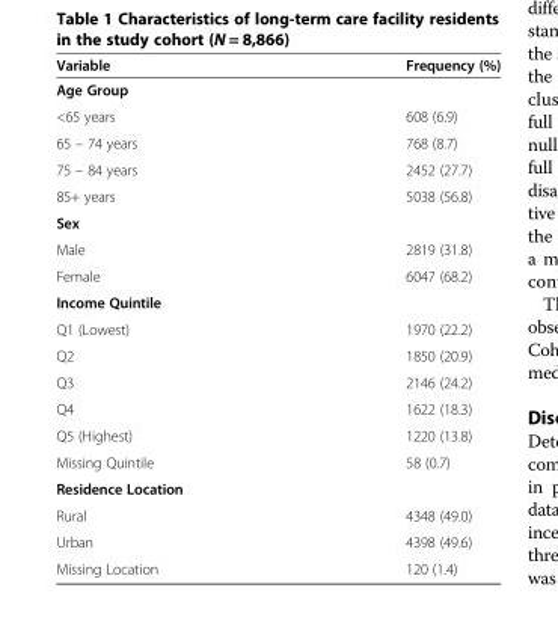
<table><thead><tr><td>Variable</td><td>Frequency (%)</td></tr></thead><tbody><tr><td colspan="2">Age Group</td></tr><tr><td>&lt;65 years</td><td>608 (6.9)</td></tr><tr><td>65 – 74 years</td><td>768 (8.7)</td></tr><tr><td>75 – 84 years</td><td>2452 (27.7)</td></tr><tr><td>85+ years</td><td>5038 (56.8)</td></tr><tr><td colspan="2">Sex</td></tr><tr><td>Male</td><td>2819 (31.8)</td></tr><tr><td>Female</td><td>6047 (68.2)</td></tr><tr><td colspan="2">Income Quintile</td></tr><tr><td>Q1 (Lowest)</td><td>1970 (22.2)</td></tr><tr><td>Q2</td><td>1850 (20.9)</td></tr><tr><td>Q3</td><td>2146 (24.2)</td></tr><tr><td>Q4</td><td>1622 (18.3)</td></tr><tr><td>Q5 (Highest)</td><td>1220 (13.8)</td></tr><tr><td>Missing Quintile</td><td>58 (0.7)</td></tr><tr><td colspan="2">Residence Location</td></tr><tr><td>Rural</td><td>4348 (49.0)</td></tr><tr><td>Urban</td><td>4398 (49.6)</td></tr><tr><td>Missing Location</td><td>120 (1.4)</td></tr></tbody></table>